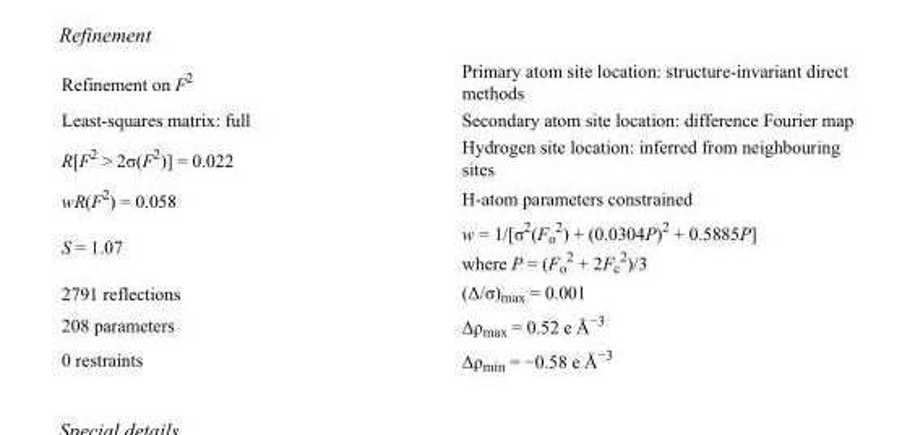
<table><tbody><tr><td>Refinement on F<sup>2</sup></td><td>Primary atom site location: structure-invariant direct methods</td></tr><tr><td>Least-squares matrix: full</td><td>Secondary atom site location: difference Fourier map</td></tr><tr><td>R[F<sup>2</sup> &gt; 2σ(F<sup>2</sup>)] = 0.022</td><td>Hydrogen site location: inferred from neighbouring sites</td></tr><tr><td>wR(F<sup>2</sup>) = 0.058</td><td>H-atom parameters constrained</td></tr><tr><td>S = 1.07</td><td>w = 1/[σ<sup>2</sup>(F<sub>o</sub> <sup>2</sup>) + (0.0304P)<sup>2</sup> + 0.5885P] where P = (F<sub>o</sub> <sup>2</sup> + 2F<sub>c</sub> <sup>2</sup>)/3</td></tr><tr><td>2791 reflections</td><td>(Δ/σ)<sub>max</sub> = 0.001</td></tr><tr><td>208 parameters</td><td>Δρ<sub>max</sub> = 0.52 e Å<sup>−3</sup></td></tr><tr><td>0 restraints</td><td>Δρ<sub>min</sub> = −0.58 e Å<sup>−3</sup></td></tr></tbody></table>